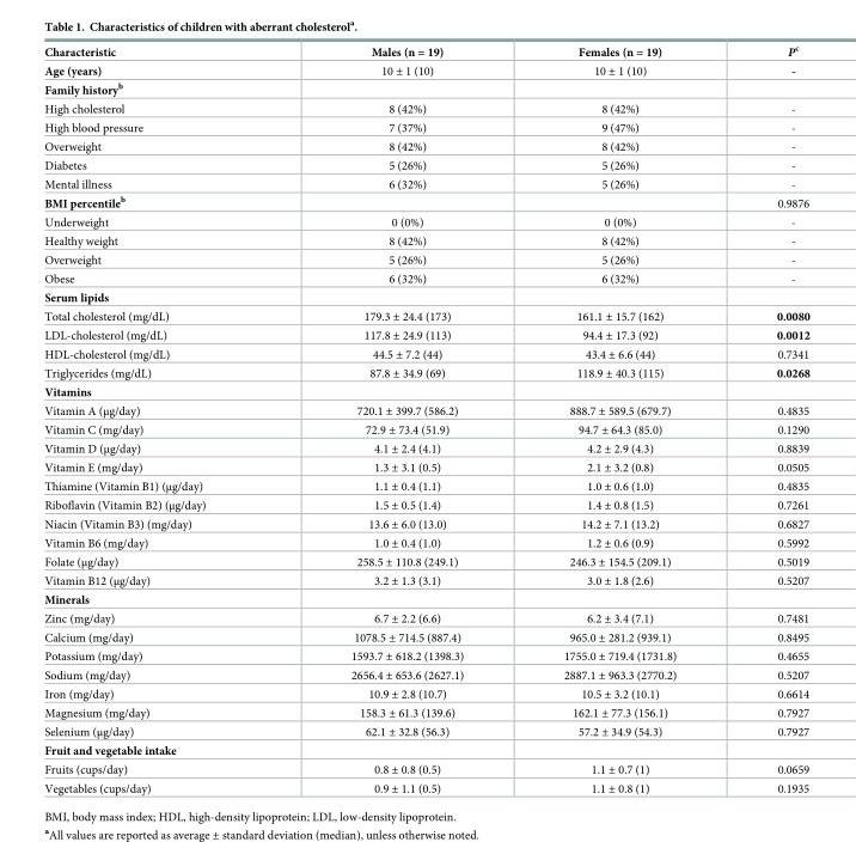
<table><thead><tr><td>Characteristic</td><td>Males (n = 19)</td><td>Females (n = 19)</td><td>P<sup>c</sup></td></tr></thead><tbody><tr><td>Age (years)</td><td>10 ± 1 (10)</td><td>10 ± 1 (10)</td><td>-</td></tr><tr><td colspan="4">Family history<sup>b</sup></td></tr><tr><td>High cholesterol</td><td>8 (42%)</td><td>8 (42%)</td><td>-</td></tr><tr><td>High blood pressure</td><td>7 (37%)</td><td>9 (47%)</td><td>-</td></tr><tr><td>Overweight</td><td>8 (42%)</td><td>8 (42%)</td><td>-</td></tr><tr><td>Diabetes</td><td>5 (26%)</td><td>5 (26%)</td><td>-</td></tr><tr><td>Mental illness</td><td>6 (32%)</td><td>5 (26%)</td><td>-</td></tr><tr><td>BMI percentile<sup>b</sup></td><td></td><td></td><td>0.9876</td></tr><tr><td>Underweight</td><td>0 (0%)</td><td>0 (0%)</td><td>-</td></tr><tr><td>Healthy weight</td><td>8 (42%)</td><td>8 (42%)</td><td>-</td></tr><tr><td>Overweight</td><td>5 (26%)</td><td>5 (26%)</td><td>-</td></tr><tr><td>Obese</td><td>6 (32%)</td><td>6 (32%)</td><td>-</td></tr><tr><td colspan="4">Serum lipids</td></tr><tr><td>Total cholesterol (mg/dL)</td><td>179.3 ± 24.4 (173)</td><td>161.1 ± 15.7 (162)</td><td>0.0080</td></tr><tr><td>LDL-cholesterol (mg/dL)</td><td>117.8 ± 24.9 (113)</td><td>94.4 ± 17.3 (92)</td><td>0.0012</td></tr><tr><td>HDL-cholesterol (mg/dL)</td><td>44.5 ± 7.2 (44)</td><td>43.4 ± 6.6 (44)</td><td>0.7341</td></tr><tr><td>Triglycerides (mg/dL)</td><td>87.8 ± 34.9 (69)</td><td>118.9 ± 40.3 (115)</td><td>0.0268</td></tr><tr><td colspan="4">Vitamins</td></tr><tr><td>Vitamin A (μg/day)</td><td>720.1 ± 399.7 (586.2)</td><td>888.7 ± 589.5 (679.7)</td><td>0.4835</td></tr><tr><td>Vitamin C (mg/day)</td><td>72.9 ± 73.4 (51.9)</td><td>94.7 ± 64.3 (85.0)</td><td>0.1290</td></tr><tr><td>Vitamin D (μg/day)</td><td>4.1 ± 2.4 (4.1)</td><td>4.2 ± 2.9 (4.3)</td><td>0.8839</td></tr><tr><td>Vitamin E (mg/day)</td><td>1.3 ± 3.1 (0.5)</td><td>2.1 ± 3.2 (0.8)</td><td>0.0505</td></tr><tr><td>Thiamine (Vitamin B1) (μg/day)</td><td>1.1 ± 0.4 (1.1)</td><td>1.0 ± 0.6 (1.0)</td><td>0.4835</td></tr><tr><td>Riboflavin (Vitamin B2) (μg/day)</td><td>1.5 ± 0.5 (1.4)</td><td>1.4 ± 0.8 (1.5)</td><td>0.7261</td></tr><tr><td>Niacin (Vitamin B3) (mg/day)</td><td>13.6 ± 6.0 (13.0)</td><td>14.2 ± 7.1 (13.2)</td><td>0.6827</td></tr><tr><td>Vitamin B6 (mg/day)</td><td>1.0 ± 0.4 (1.0)</td><td>1.2 ± 0.6 (0.9)</td><td>0.5992</td></tr><tr><td>Folate (μg/day)</td><td>258.5 ± 110.8 (249.1)</td><td>246.3 ± 154.5 (209.1)</td><td>0.5019</td></tr><tr><td>Vitamin B12 (μg/day)</td><td>3.2 ± 1.3 (3.1)</td><td>3.0 ± 1.8 (2.6)</td><td>0.5207</td></tr><tr><td colspan="4">Minerals</td></tr><tr><td>Zinc (mg/day)</td><td>6.7 ± 2.2 (6.6)</td><td>6.2 ± 3.4 (7.1)</td><td>0.7481</td></tr><tr><td>Calcium (mg/day)</td><td>1078.5 ± 714.5 (887.4)</td><td>965.0 ± 281.2 (939.1)</td><td>0.8495</td></tr><tr><td>Potassium (mg/day)</td><td>1593.7 ± 618.2 (1398.3)</td><td>1755.0 ± 719.4 (1731.8)</td><td>0.4655</td></tr><tr><td>Sodium (mg/day)</td><td>2656.4 ± 653.6 (2627.1)</td><td>2887.1 ± 963.3 (2770.2)</td><td>0.5207</td></tr><tr><td>Iron (mg/day)</td><td>10.9 ± 2.8 (10.7)</td><td>10.5 ± 3.2 (10.1)</td><td>0.6614</td></tr><tr><td>Magnesium (mg/day)</td><td>158.3 ± 61.3 (139.6)</td><td>162.1 ± 77.3 (156.1)</td><td>0.7927</td></tr><tr><td>Selenium (μg/day)</td><td>62.1 ± 32.8 (56.3)</td><td>57.2 ± 34.9 (54.3)</td><td>0.7927</td></tr><tr><td colspan="4">Fruit and vegetable intake</td></tr><tr><td>Fruits (cups/day)</td><td>0.8 ± 0.8 (0.5)</td><td>1.1 ± 0.7 (1)</td><td>0.0659</td></tr><tr><td>Vegetables (cups/day)</td><td>0.9 ± 1.1 (0.5)</td><td>1.1 ± 0.8 (1)</td><td>0.1935</td></tr></tbody></table>